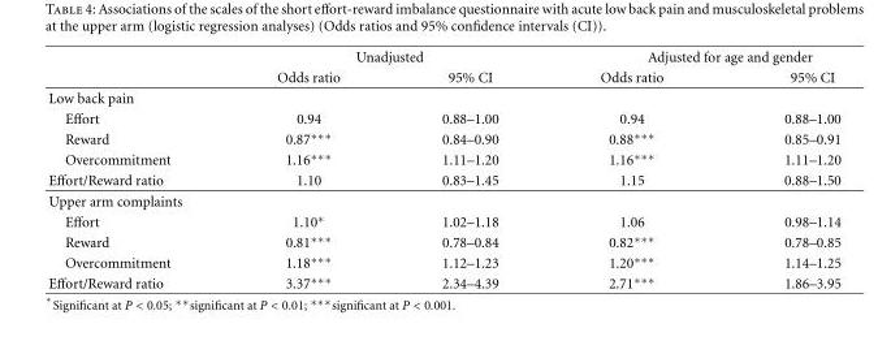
<table><thead><tr><td rowspan="2"></td><td colspan="2">Unadjusted</td><td colspan="2">Adjusted for age and gender</td></tr><tr><td>Odds ratio</td><td>95% CI</td><td>Odds ratio</td><td>95% CI</td></tr></thead><tbody><tr><td colspan="5">Low back pain</td></tr><tr><td>Effort</td><td>0.94</td><td>0.88–1.00</td><td>0.94</td><td>0.88–1.00</td></tr><tr><td>Reward</td><td>0.87∗∗∗</td><td>0.84–0.90</td><td>0.88∗∗∗</td><td>0.85–0.91</td></tr><tr><td>Overcommitment</td><td>1.16∗∗∗</td><td>1.11–1.20</td><td>1.16∗∗∗</td><td>1.11–1.20</td></tr><tr><td>Effort/Reward ratio</td><td>1.10</td><td>0.83–1.45</td><td>1.15</td><td>0.88–1.50</td></tr><tr><td colspan="5">Upper arm complaints</td></tr><tr><td>Effort</td><td>1.10∗</td><td>1.02–1.18</td><td>1.06</td><td>0.98–1.14</td></tr><tr><td>Reward</td><td>0.81∗∗∗</td><td>0.78–0.84</td><td>0.82∗∗∗</td><td>0.78–0.85</td></tr><tr><td>Overcommitment</td><td>1.18∗∗∗</td><td>1.12–1.23</td><td>1.20∗∗∗</td><td>1.14–1.25</td></tr><tr><td>Effort/Reward ratio</td><td>3.37∗∗∗</td><td>2.34–4.39</td><td>2.71∗∗∗</td><td>1.86–3.95</td></tr></tbody></table>